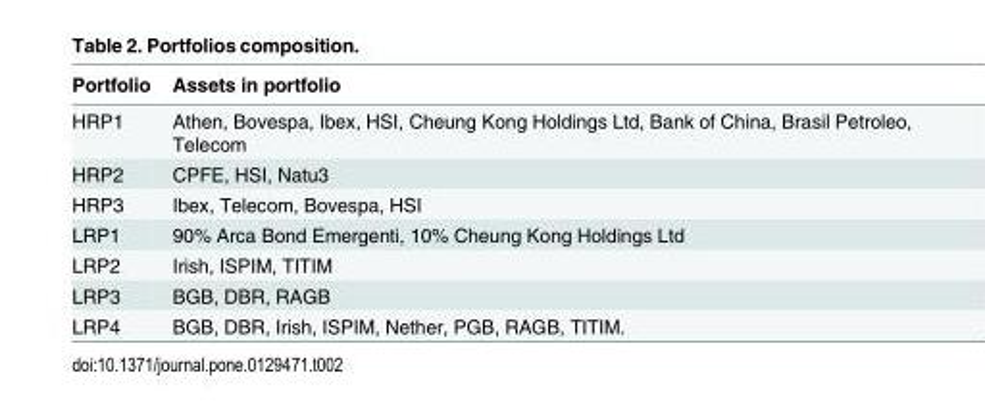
<table><thead><tr><td>Portfolio</td><td>Assets in portfolio</td></tr></thead><tbody><tr><td>HRP1</td><td>Athen, Bovespa, Ibex, HSI, Cheung Kong Holdings Ltd, Bank of China, Brasil Petroleo, Telecom</td></tr><tr><td>HRP2</td><td>CPFE, HSI, Natu3</td></tr><tr><td>HRP3</td><td>Ibex, Telecom, Bovespa, HSI</td></tr><tr><td>LRP1</td><td>90% Arca Bond Emergenti, 10% Cheung Kong Holdings Ltd</td></tr><tr><td>LRP2</td><td>Irish, ISPIM, TITIM</td></tr><tr><td>LRP3</td><td>BGB, DBR, RAGB</td></tr><tr><td>LRP4</td><td>BGB, DBR, Irish, ISPIM, Nether, PGB, RAGB, TITIM.</td></tr></tbody></table>